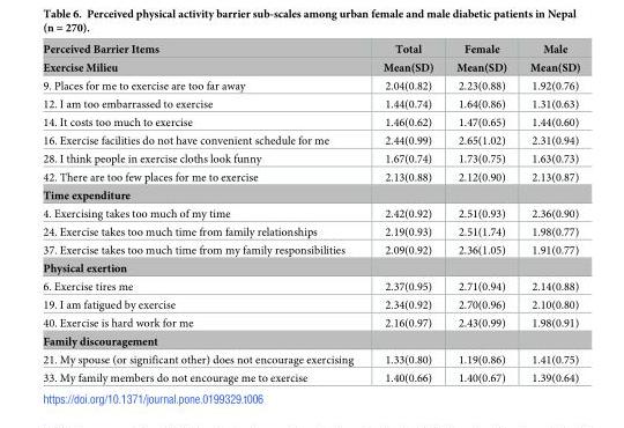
<table><thead><tr><td rowspan="2">Perceived Barrier Items Exercise Milieu</td><td rowspan="2">Total Mean(SD)</td><td rowspan="2">Female Mean(SD)</td><td rowspan="2">Male Mean(SD)</td></tr><tr></tr></thead><tbody><tr><td>9. Places for me to exercise are too far away</td><td>2.04(0.82)</td><td>2.23(0.88)</td><td>1.92(0.76)</td></tr><tr><td>12. I am too embarrassed to exercise</td><td>1.44(0.74)</td><td>1.64(0.86)</td><td>1.31(0.63)</td></tr><tr><td>14. It costs too much to exercise</td><td>1.46(0.62)</td><td>1.47(0.65)</td><td>1.44(0.60)</td></tr><tr><td>16. Exercise facilities do not have convenient schedule for me</td><td>2.44(0.99)</td><td>2.65(1.02)</td><td>2.31(0.94)</td></tr><tr><td>28. I think people in exercise cloths look funny</td><td>1.67(0.74)</td><td>1.73(0.75)</td><td>1.63(0.73)</td></tr><tr><td>42. There are too few places for me to exercise</td><td>2.13(0.88)</td><td>2.12(0.90)</td><td>2.13(0.87)</td></tr><tr><td colspan="4">Time expenditure</td></tr><tr><td>4. Exercising takes too much of my time</td><td>2.42(0.92)</td><td>2.51(0.93)</td><td>2.36(0.90)</td></tr><tr><td>24. Exercise takes too much time from family relationships</td><td>2.19(0.93)</td><td>2.51(1.74)</td><td>1.98(0.77)</td></tr><tr><td>37. Exercise takes too much time from my family responsibilities</td><td>2.09(0.92)</td><td>2.36(1.05)</td><td>1.91(0.77)</td></tr><tr><td colspan="4">Physical exertion</td></tr><tr><td>6. Exercise tires me</td><td>2.37(0.95)</td><td>2.71(0.94)</td><td>2.14(0.88)</td></tr><tr><td>19. I am fatigued by exercise</td><td>2.34(0.92)</td><td>2.70(0.96)</td><td>2.10(0.80)</td></tr><tr><td>40. Exercise is hard work for me</td><td>2.16(0.97)</td><td>2.43(0.99)</td><td>1.98(0.91)</td></tr><tr><td colspan="4">Family discouragement</td></tr><tr><td>21. My spouse (or significant other) does not encourage exercising</td><td>1.33(0.80)</td><td>1.19(0.86)</td><td>1.41(0.75)</td></tr><tr><td>33. My family members do not encourage me to exercise</td><td>1.40(0.66)</td><td>1.40(0.67)</td><td>1.39(0.64)</td></tr></tbody></table>